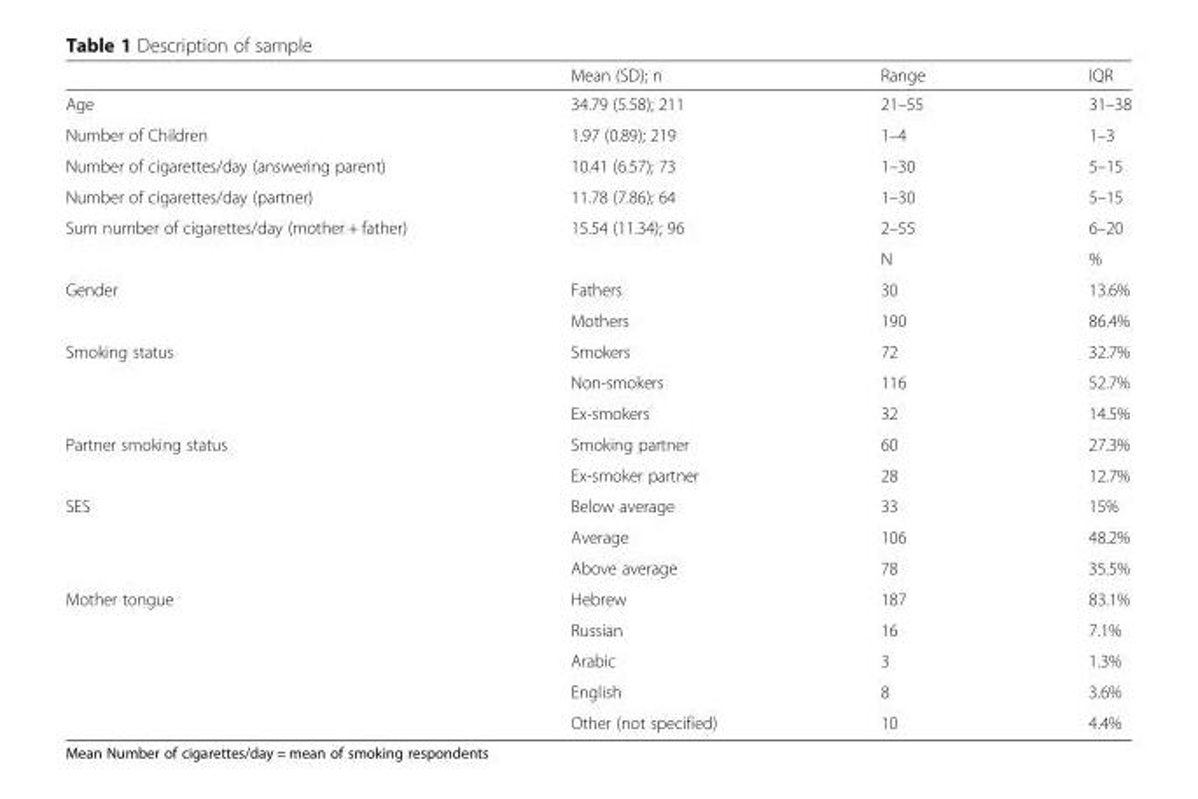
<table><thead><tr><td></td><td>Mean (SD); n</td><td>Range</td><td>IQR</td></tr></thead><tbody><tr><td>Age</td><td>34.79 (5.58); 211</td><td>21–55</td><td>31–38</td></tr><tr><td>Number of Children</td><td>1.97 (0.89); 219</td><td>1–4</td><td>1–3</td></tr><tr><td>Number of cigarettes/day (answering parent)</td><td>10.41 (6.57); 73</td><td>1–30</td><td>5–15</td></tr><tr><td>Number of cigarettes/day (partner)</td><td>11.78 (7.86); 64</td><td>1–30</td><td>5–15</td></tr><tr><td rowspan="2">Sum number of cigarettes/day (mother + father)</td><td>15.54 (11.34); 96</td><td>2–55</td><td>6–20</td></tr><tr><td></td><td>N</td><td>%</td></tr><tr><td rowspan="2">Gender</td><td>Fathers</td><td>30</td><td>13.6%</td></tr><tr><td>Mothers</td><td>190</td><td>86.4%</td></tr><tr><td rowspan="3">Smoking status</td><td>Smokers</td><td>72</td><td>32.7%</td></tr><tr><td>Non-smokers</td><td>116</td><td>52.7%</td></tr><tr><td>Ex-smokers</td><td>32</td><td>14.5%</td></tr><tr><td rowspan="2">Partner smoking status</td><td>Smoking partner</td><td>60</td><td>27.3%</td></tr><tr><td>Ex-smoker partner</td><td>28</td><td>12.7%</td></tr><tr><td rowspan="3">SES</td><td>Below average</td><td>33</td><td>15%</td></tr><tr><td>Average</td><td>106</td><td>48.2%</td></tr><tr><td>Above average</td><td>78</td><td>35.5%</td></tr><tr><td rowspan="5">Mother tongue</td><td>Hebrew</td><td>187</td><td>83.1%</td></tr><tr><td>Russian</td><td>16</td><td>7.1%</td></tr><tr><td>Arabic</td><td>3</td><td>1.3%</td></tr><tr><td>English</td><td>8</td><td>3.6%</td></tr><tr><td>Other (not specified)</td><td>10</td><td>4.4%</td></tr></tbody></table>